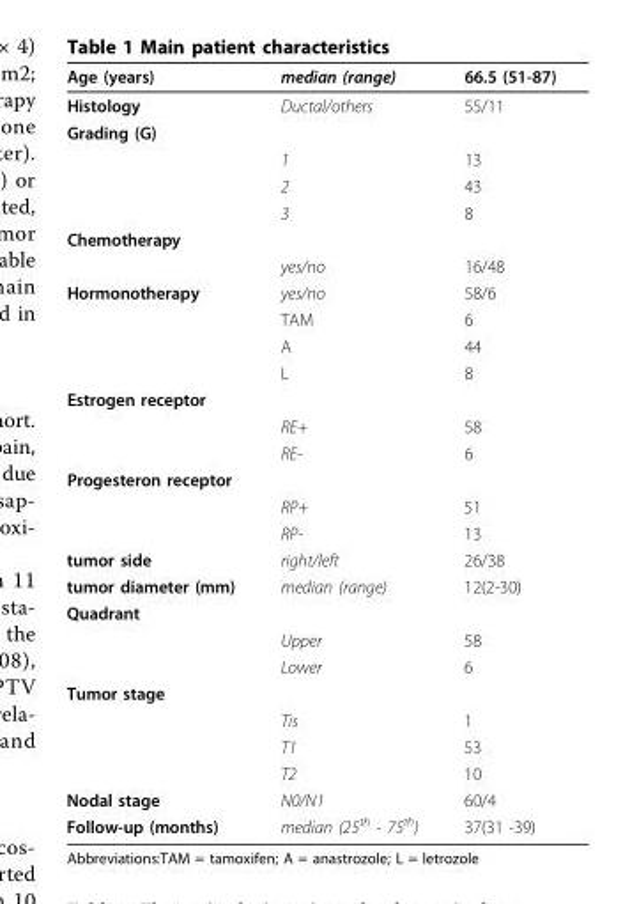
<table><thead><tr><td>Age (years)</td><td>median (range)</td><td>66.5 (51-87)</td></tr></thead><tbody><tr><td>Histology</td><td>Ductal/others</td><td>55/11</td></tr><tr><td colspan="3">Grading (G)</td></tr><tr><td></td><td>1</td><td>13</td></tr><tr><td></td><td>2</td><td>43</td></tr><tr><td></td><td>3</td><td>8</td></tr><tr><td colspan="3">Chemotherapy</td></tr><tr><td></td><td>yes/no</td><td>16/48</td></tr><tr><td rowspan="4">Hormonotherapy</td><td>yes/no</td><td>58/6</td></tr><tr><td>TAM</td><td>6</td></tr><tr><td>A</td><td>44</td></tr><tr><td>L</td><td>8</td></tr><tr><td colspan="3">Estrogen receptor</td></tr><tr><td></td><td>RE+</td><td>58</td></tr><tr><td></td><td>RE-</td><td>6</td></tr><tr><td colspan="3">Progesteron receptor</td></tr><tr><td></td><td>RP+</td><td>51</td></tr><tr><td></td><td>RP-</td><td>13</td></tr><tr><td>tumor side</td><td>right/left</td><td>26/38</td></tr><tr><td>tumor diameter (mm)</td><td>median (range)</td><td>12(2-30)</td></tr><tr><td colspan="3">Quadrant</td></tr><tr><td></td><td>Upper</td><td>58</td></tr><tr><td></td><td>Lower</td><td>6</td></tr><tr><td colspan="3">Tumor stage</td></tr><tr><td></td><td>Tis</td><td>1</td></tr><tr><td></td><td>T1</td><td>53</td></tr><tr><td></td><td>T2</td><td>10</td></tr><tr><td>Nodal stage</td><td>N0/N1</td><td>60/4</td></tr><tr><td>Follow-up (months)</td><td>median (25<sup>th</sup> - 75<sup>th</sup>)</td><td>37(31 -39)</td></tr></tbody></table>